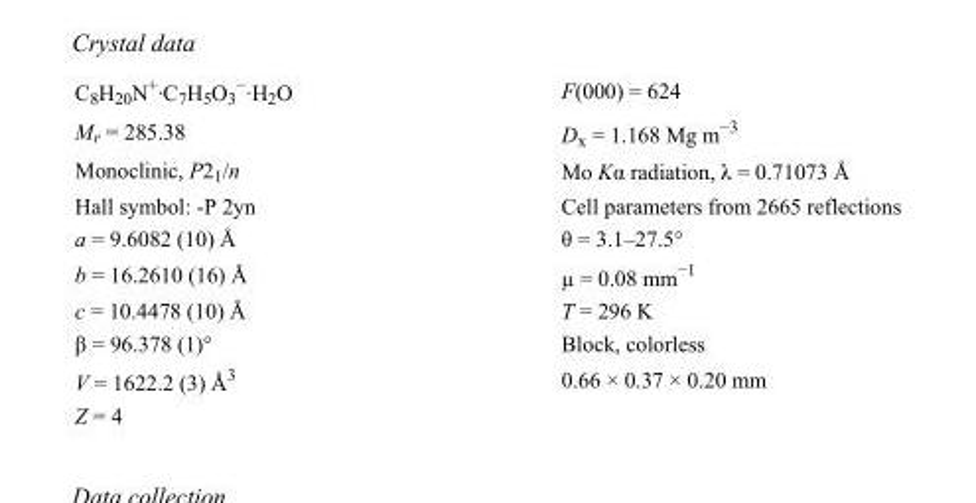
<table><tbody><tr><td>C<sub>8</sub>H<sub>20</sub>N<sup>+</sup>·C<sub>7</sub>H<sub>5</sub>O<sub>3</sub> <sup>−</sup>·H<sub>2</sub>O</td><td>F(000) = 624</td></tr><tr><td>M<sub>r</sub> = 285.38</td><td>D<sub>x</sub> = 1.168 Mg m<sup>−3</sup></td></tr><tr><td>Monoclinic, P2<sub>1</sub>/n</td><td>Mo Kα radiation, λ = 0.71073 Å</td></tr><tr><td>Hall symbol: -P 2yn</td><td>Cell parameters from 2665 reflections</td></tr><tr><td>a = 9.6082 (10) Å</td><td>θ = 3.1–27.5°</td></tr><tr><td>b = 16.2610 (16) Å</td><td>µ = 0.08 mm<sup>−1</sup></td></tr><tr><td>c = 10.4478 (10) Å</td><td>T = 296 K</td></tr><tr><td>β = 96.378 (1)°</td><td>Block, colorless</td></tr><tr><td>V = 1622.2 (3) Å<sup>3</sup></td><td>0.66 × 0.37 × 0.20 mm</td></tr><tr><td>Z = 4</td><td></td></tr></tbody></table>